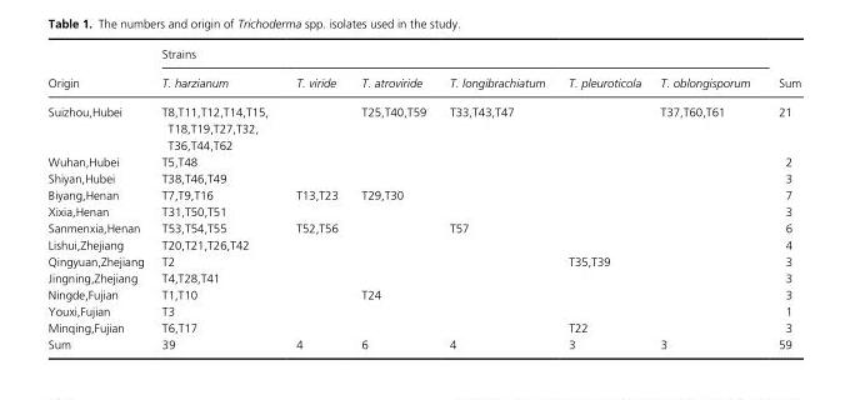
<table><thead><tr><td rowspan="2">Origin</td><td colspan="6">Strains</td><td rowspan="2">Sum</td></tr><tr><td>T. harzianum</td><td>T. viride</td><td>T. atroviride</td><td>T. longibrachiatum</td><td>T. pleuroticola</td><td>T. oblongisporum</td></tr></thead><tbody><tr><td>Suizhou,Hubei</td><td>T8,T11,T12,T14,T15, T18,T19,T27,T32, T36,T44,T62</td><td></td><td>T25,T40,T59</td><td>T33,T43,T47</td><td></td><td>T37,T60,T61</td><td>21</td></tr><tr><td>Wuhan,Hubei</td><td>T5,T48</td><td></td><td></td><td></td><td></td><td></td><td>2</td></tr><tr><td>Shiyan,Hubei</td><td>T38,T46,T49</td><td></td><td></td><td></td><td></td><td></td><td>3</td></tr><tr><td>Biyang,Henan</td><td>T7,T9,T16</td><td>T13,T23</td><td>T29,T30</td><td></td><td></td><td></td><td>7</td></tr><tr><td>Xixia,Henan</td><td>T31,T50,T51</td><td></td><td></td><td></td><td></td><td></td><td>3</td></tr><tr><td>Sanmenxia,Henan</td><td>T53,T54,T55</td><td>T52,T56</td><td></td><td>T57</td><td></td><td></td><td>6</td></tr><tr><td>Lishui,Zhejiang</td><td>T20,T21,T26,T42</td><td></td><td></td><td></td><td></td><td></td><td>4</td></tr><tr><td>Qingyuan,Zhejiang</td><td>T2</td><td></td><td></td><td></td><td>T35,T39</td><td></td><td>3</td></tr><tr><td>Jingning,Zhejiang</td><td>T4,T28,T41</td><td></td><td></td><td></td><td></td><td></td><td>3</td></tr><tr><td>Ningde,Fujian</td><td>T1,T10</td><td></td><td>T24</td><td></td><td></td><td></td><td>3</td></tr><tr><td>Youxi,Fujian</td><td>T3</td><td></td><td></td><td></td><td></td><td></td><td>1</td></tr><tr><td>Minqing,Fujian</td><td>T6,T17</td><td></td><td></td><td></td><td>T22</td><td></td><td>3</td></tr><tr><td>Sum</td><td>39</td><td>4</td><td>6</td><td>4</td><td>3</td><td>3</td><td>59</td></tr></tbody></table>